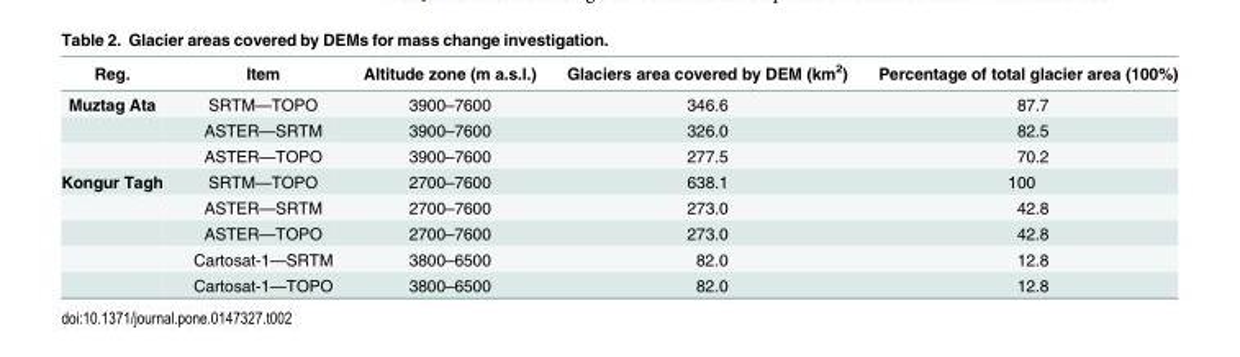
<table><thead><tr><td>Reg.</td><td>Item</td><td>Altitude zone (m a.s.l.)</td><td>Glaciers area covered by DEM (km<sup>2</sup>)</td><td>Percentage of total glacier area (100%)</td></tr></thead><tbody><tr><td rowspan="3">Muztag Ata</td><td>SRTM—TOPO</td><td>3900–7600</td><td>346.6</td><td>87.7</td></tr><tr><td>ASTER—SRTM</td><td>3900–7600</td><td>326.0</td><td>82.5</td></tr><tr><td>ASTER—TOPO</td><td>3900–7600</td><td>277.5</td><td>70.2</td></tr><tr><td rowspan="5">Kongur Tagh</td><td>SRTM—TOPO</td><td>2700–7600</td><td>638.1</td><td>100</td></tr><tr><td>ASTER—SRTM</td><td>2700–7600</td><td>273.0</td><td>42.8</td></tr><tr><td>ASTER—TOPO</td><td>2700–7600</td><td>273.0</td><td>42.8</td></tr><tr><td>Cartosat-1—SRTM</td><td>3800–6500</td><td>82.0</td><td>12.8</td></tr><tr><td>Cartosat-1—TOPO</td><td>3800–6500</td><td>82.0</td><td>12.8</td></tr></tbody></table>